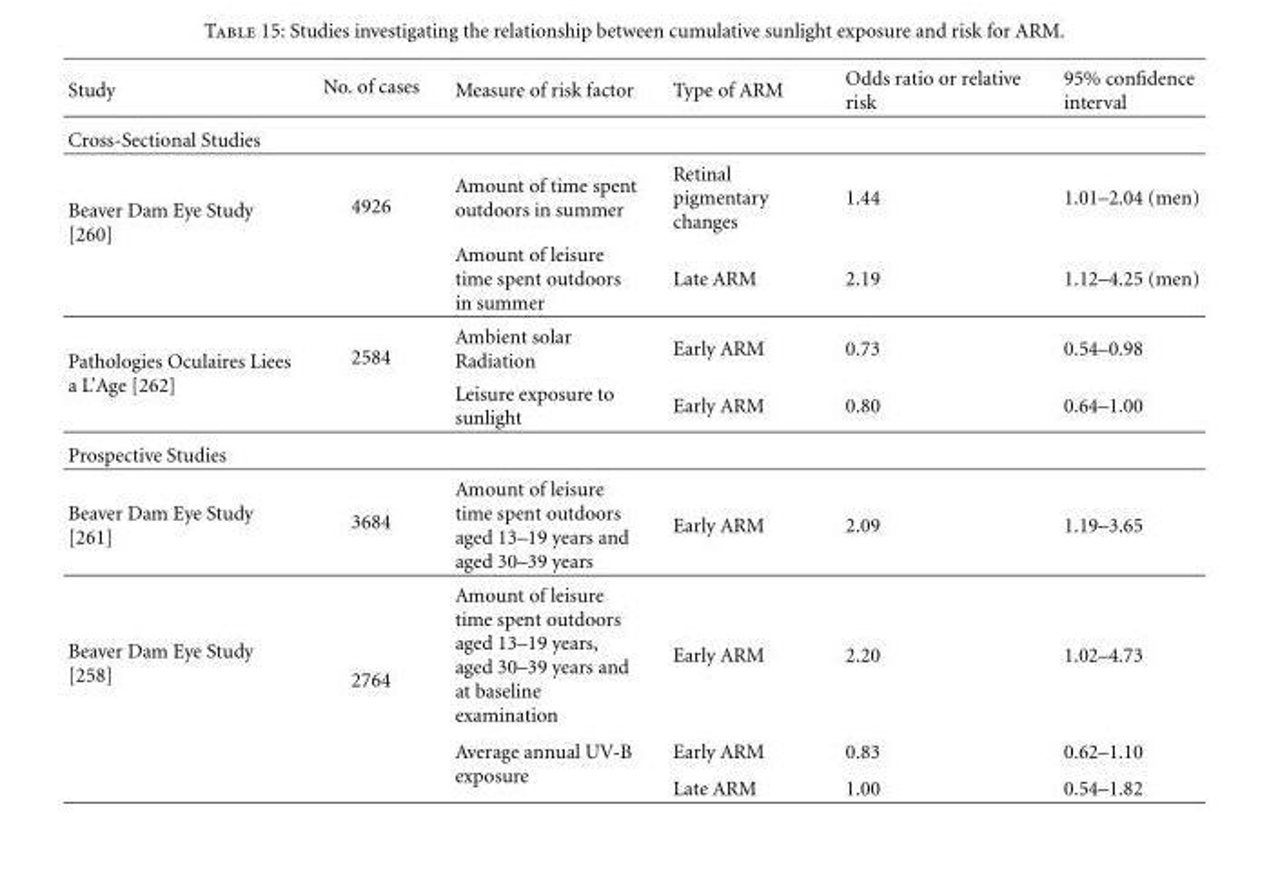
<table><thead><tr><td>Study</td><td>No. of cases</td><td>Measure of risk factor</td><td>Type of ARM</td><td>Odds ratio or relative risk</td><td>95% confidence interval</td></tr></thead><tbody><tr><td colspan="6">Cross-Sectional Studies</td></tr><tr><td rowspan="2">Beaver Dam Eye Study [260]</td><td rowspan="2">4926</td><td>Amount of time spent outdoors in summer</td><td>Retinal pigmentary changes</td><td>1.44</td><td>1.01–2.04 (men)</td></tr><tr><td>Amount of leisure time spent outdoors in summer</td><td>Late ARM</td><td>2.19</td><td>1.12–4.25 (men)</td></tr><tr><td rowspan="2">Pathologies Oculaires Liees a L’Age [262]</td><td rowspan="2">2584</td><td>Ambient solar Radiation</td><td>Early ARM</td><td>0.73</td><td>0.54–0.98</td></tr><tr><td>Leisure exposure to sunlight</td><td>Early ARM</td><td>0.80</td><td>0.64–1.00</td></tr><tr><td colspan="6">Prospective Studies</td></tr><tr><td>Beaver Dam Eye Study [261]</td><td>3684</td><td>Amount of leisure time spent outdoors aged 13–19 years and aged 30–39 years</td><td>Early ARM</td><td>2.09</td><td>1.19–3.65</td></tr><tr><td rowspan="3">Beaver Dam Eye Study [258]</td><td rowspan="3">2764</td><td>Amount of leisure time spent outdoors aged 13–19 years, aged 30–39 years and at baseline examination</td><td>Early ARM</td><td>2.20</td><td>1.02–4.73</td></tr><tr><td rowspan="2">Average annual UV-B exposure</td><td>Early ARM</td><td>0.83</td><td>0.62–1.10</td></tr><tr><td>Late ARM</td><td>1.00</td><td>0.54–1.82</td></tr></tbody></table>